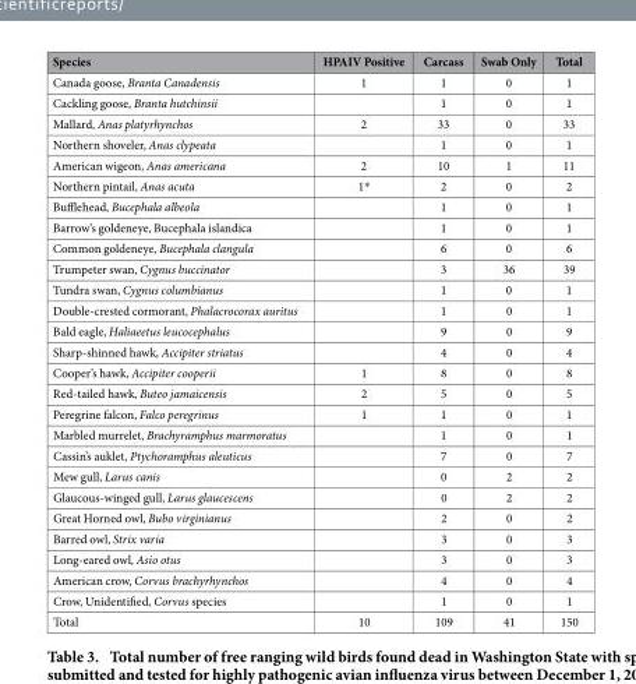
<table><thead><tr><td>Species</td><td>HPAIV Positive</td><td>Carcass</td><td>Swab Only</td><td>Total</td></tr></thead><tbody><tr><td>Canada goose, Branta Canadensis</td><td>1</td><td>1</td><td>0</td><td>1</td></tr><tr><td>Cackling goose, Branta hutchinsii</td><td></td><td>1</td><td>0</td><td>1</td></tr><tr><td>Mallard, Anas platyrhynchos</td><td>2</td><td>33</td><td>0</td><td>33</td></tr><tr><td>Northern shoveler, Anas clypeata</td><td></td><td>1</td><td>0</td><td>1</td></tr><tr><td>American wigeon, Anas americana</td><td>2</td><td>10</td><td>1</td><td>11</td></tr><tr><td>Northern pintail, Anas acuta</td><td>1*</td><td>2</td><td>0</td><td>2</td></tr><tr><td>Bufflehead, Bucephala albeola</td><td></td><td>1</td><td>0</td><td>1</td></tr><tr><td>Barrow’s goldeneye, Bucephala islandica</td><td></td><td>1</td><td>0</td><td>1</td></tr><tr><td>Common goldeneye, Bucephala clangula</td><td></td><td>6</td><td>0</td><td>6</td></tr><tr><td>Trumpeter swan, Cygnus buccinator</td><td></td><td>3</td><td>36</td><td>39</td></tr><tr><td>Tundra swan, Cygnus columbianus</td><td></td><td>1</td><td>0</td><td>1</td></tr><tr><td>Double-crested cormorant, Phalacrocorax auritus</td><td></td><td>1</td><td>0</td><td>1</td></tr><tr><td>Bald eagle, Haliaeetus leucocephalus</td><td></td><td>9</td><td>0</td><td>9</td></tr><tr><td>Sharp-shinned hawk, Accipiter striatus</td><td></td><td>4</td><td>0</td><td>4</td></tr><tr><td>Cooper’s hawk, Accipiter cooperii</td><td>1</td><td>8</td><td>0</td><td>8</td></tr><tr><td>Red-tailed hawk, Buteo jamaicensis</td><td>2</td><td>5</td><td>0</td><td>5</td></tr><tr><td>Peregrine falcon, Falco peregrinus</td><td>1</td><td>1</td><td>0</td><td>1</td></tr><tr><td>Marbled murrelet, Brachyramphus marmoratus</td><td></td><td>1</td><td>0</td><td>1</td></tr><tr><td>Cassin’s auklet, Ptychoramphus aleuticus</td><td></td><td>7</td><td>0</td><td>7</td></tr><tr><td>Mew gull, Larus canis</td><td></td><td>0</td><td>2</td><td>2</td></tr><tr><td>Glaucous-winged gull, Larus glaucescens</td><td></td><td>0</td><td>2</td><td>2</td></tr><tr><td>Great Horned owl, Bubo virginianus</td><td></td><td>2</td><td>0</td><td>2</td></tr><tr><td>Barred owl, Strix varia</td><td></td><td>3</td><td>0</td><td>3</td></tr><tr><td>Long-eared owl, Asio otus</td><td></td><td>3</td><td>0</td><td>3</td></tr><tr><td>American crow, Corvus brachyrhynchos</td><td></td><td>4</td><td>0</td><td>4</td></tr><tr><td>Crow, Unidentified, Corvus species</td><td></td><td>1</td><td>0</td><td>1</td></tr><tr><td>Total</td><td>10</td><td>109</td><td>41</td><td>150</td></tr></tbody></table>